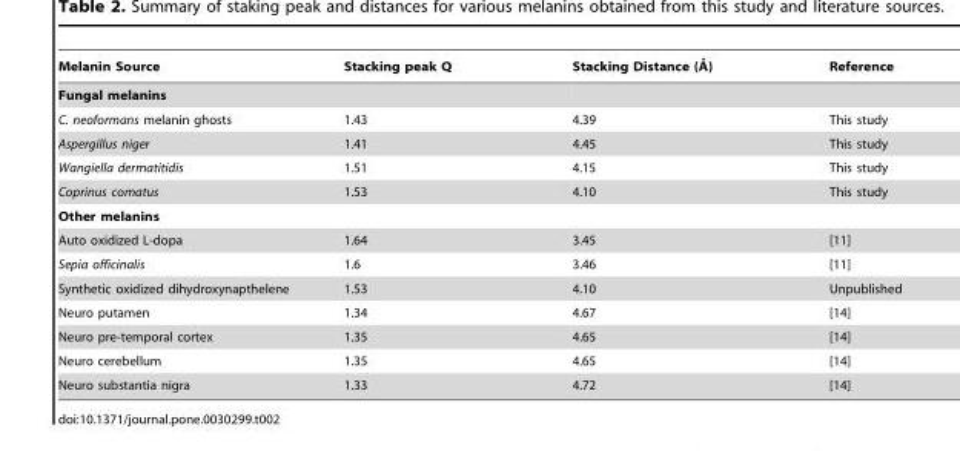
<table><thead><tr><td>Melanin Source</td><td>Stacking peak Q</td><td>Stacking Distance (A˚ )</td><td>Reference</td></tr></thead><tbody><tr><td colspan="4">Fungal melanins</td></tr><tr><td>C. neoformans melanin ghosts</td><td>1.43</td><td>4.39</td><td>This study</td></tr><tr><td>Aspergillus niger</td><td>1.41</td><td>4.45</td><td>This study</td></tr><tr><td>Wangiella dermatitidis</td><td>1.51</td><td>4.15</td><td>This study</td></tr><tr><td>Coprinus comatus</td><td>1.53</td><td>4.10</td><td>This study</td></tr><tr><td colspan="4">Other melanins</td></tr><tr><td>Auto oxidized L-dopa</td><td>1.64</td><td>3.45</td><td>[11]</td></tr><tr><td>Sepia officinalis</td><td>1.6</td><td>3.46</td><td>[11]</td></tr><tr><td>Synthetic oxidized dihydroxynapthelene</td><td>1.53</td><td>4.10</td><td>Unpublished</td></tr><tr><td>Neuro putamen</td><td>1.34</td><td>4.67</td><td>[14]</td></tr><tr><td>Neuro pre-temporal cortex</td><td>1.35</td><td>4.65</td><td>[14]</td></tr><tr><td>Neuro cerebellum</td><td>1.35</td><td>4.65</td><td>[14]</td></tr><tr><td>Neuro substantia nigra</td><td>1.33</td><td>4.72</td><td>[14]</td></tr></tbody></table>